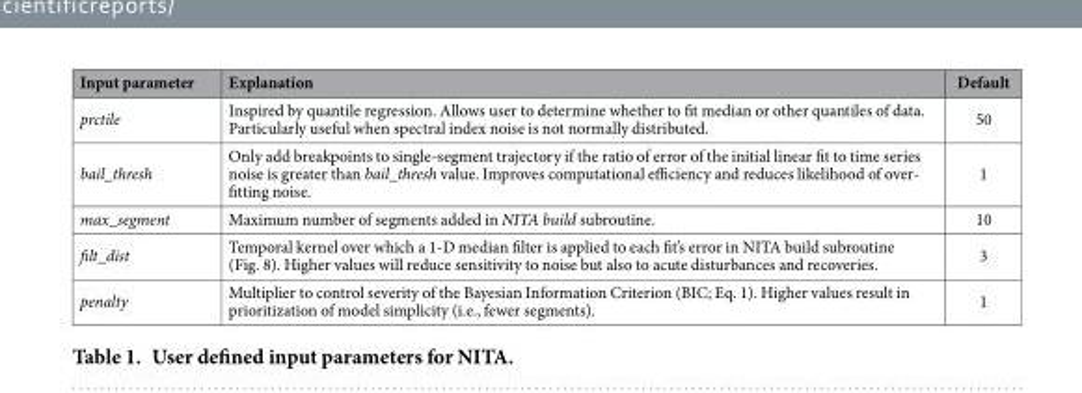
<table><thead><tr><td>Input parameter</td><td>Explanation</td><td>Default</td></tr></thead><tbody><tr><td>prctile</td><td>Inspired by quantile regression. Allows user to determine whether to fit median or other quantiles of data. Particularly useful when spectral index noise is not normally distributed.</td><td>50</td></tr><tr><td>bail_thresh</td><td>Only add breakpoints to single-segment trajectory if the ratio of error of the initial linear fit to time series noise is greater than bail_thresh value. Improves computational efficiency and reduces likelihood of over- fitting noise.</td><td>1</td></tr><tr><td>max_segment</td><td>Maximum number of segments added in NITA build subroutine.</td><td>10</td></tr><tr><td>filt_dist</td><td>Temporal kernel over which a 1-D median filter is applied to each fit’s error in NITA build subroutine (Fig. 8). Higher values will reduce sensitivity to noise but also to acute disturbances and recoveries.</td><td>3</td></tr><tr><td>penalty</td><td>Multiplier to control severity of the Bayesian Information Criterion (BIC; Eq. 1). Higher values result in prioritization of model simplicity (i.e., fewer segments).</td><td>1</td></tr></tbody></table>